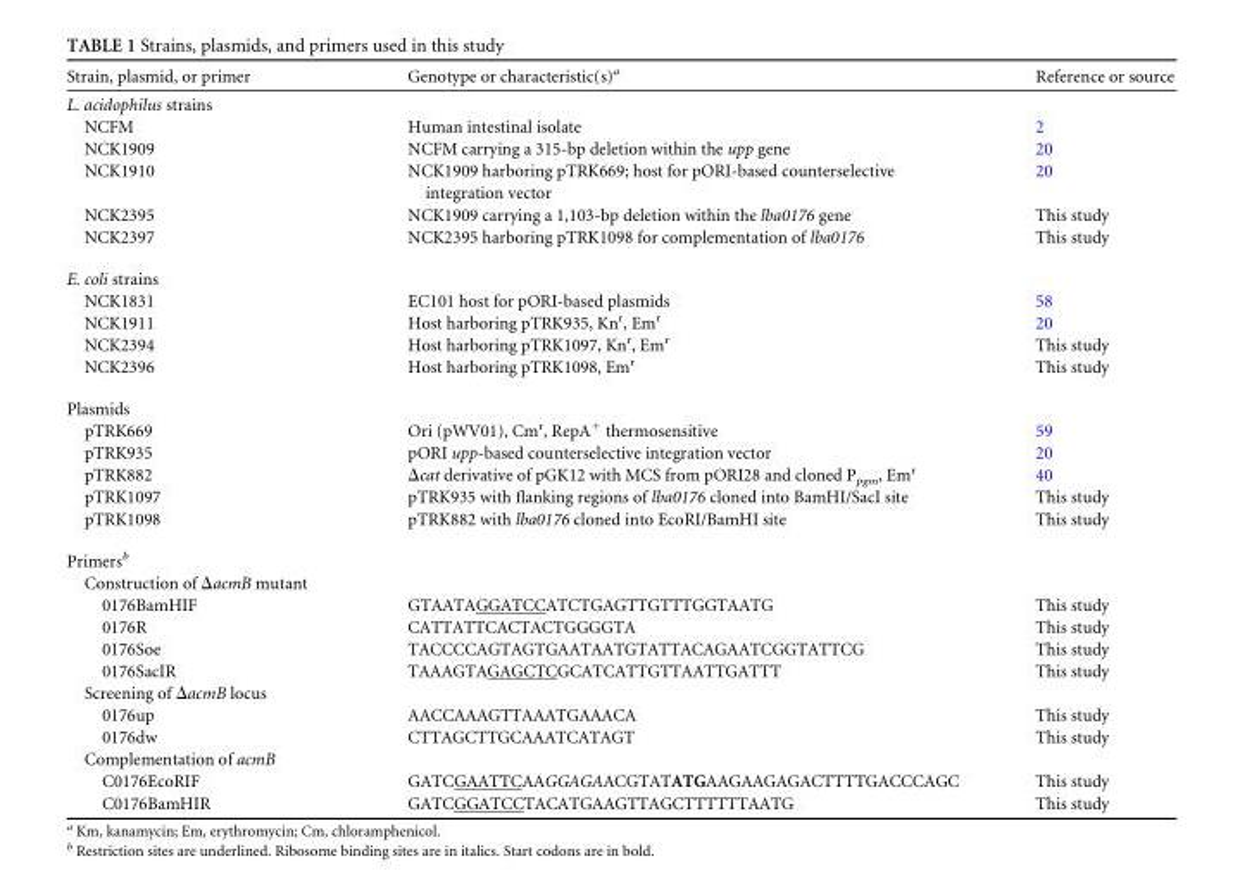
<table><thead><tr><td>Strain, plasmid, or primer</td><td>Genotype or characteristic(s)<sup>a</sup></td><td>Reference or source</td></tr></thead><tbody><tr><td colspan="3">L. acidophilus strains</td></tr><tr><td>NCFM</td><td>Human intestinal isolate</td><td>2</td></tr><tr><td>NCK1909</td><td>NCFM carrying a 315-bp deletion within the upp gene</td><td>20</td></tr><tr><td>NCK1910</td><td>NCK1909 harboring pTRK669; host for pORI-based counterselective integration vector</td><td>20</td></tr><tr><td>NCK2395</td><td>NCK1909 carrying a 1,103-bp deletion within the lba0176 gene</td><td>This study</td></tr><tr><td>NCK2397</td><td>NCK2395 harboring pTRK1098 for complementation of lba0176</td><td>This study</td></tr><tr><td colspan="3">E. coli strains</td></tr><tr><td>NCK1831</td><td>EC101 host for pORI-based plasmids</td><td>58</td></tr><tr><td>NCK1911</td><td>Host harboring pTRK935, Kn<sup>r</sup>, Em<sup>r</sup></td><td>20</td></tr><tr><td>NCK2394</td><td>Host harboring pTRK1097, Kn<sup>r</sup>, Em<sup>r</sup></td><td>This study</td></tr><tr><td>NCK2396</td><td>Host harboring pTRK1098, Em<sup>r</sup></td><td>This study</td></tr><tr><td colspan="3">Plasmids</td></tr><tr><td>pTRK669</td><td>Ori (pWV01), Cm<sup>r</sup>, RepA<sup>+</sup> thermosensitive</td><td>59</td></tr><tr><td>pTRK935</td><td>pORI upp-based counterselective integration vector</td><td>20</td></tr><tr><td>pTRK882</td><td>Δcat derivative of pGK12 with MCS from pORI28 and cloned P<sub>pgm</sub>, Em<sup>r</sup></td><td>40</td></tr><tr><td>pTRK1097</td><td>pTRK935 with flanking regions of lba0176 cloned into BamHI/SacI site</td><td>This study</td></tr><tr><td>pTRK1098</td><td>pTRK882 with lba0176 cloned into EcoRI/BamHI site</td><td>This study</td></tr><tr><td colspan="3">Primers<sup>b</sup></td></tr><tr><td colspan="3">Construction of ΔacmB mutant</td></tr><tr><td>0176BamHIF</td><td>GTAATAGGATCCATCTGAGTTGTTTGGTAATG</td><td>This study</td></tr><tr><td>0176R</td><td>CATTATTCACTACTGGGGTA</td><td>This study</td></tr><tr><td>0176Soe</td><td>TACCCCAGTAGTGAATAATGTATTACAGAATCGGTATTCG</td><td>This study</td></tr><tr><td>0176SacIR</td><td>TAAAGTAGAGCTCGCATCATTGTTAATTGATTT</td><td>This study</td></tr><tr><td colspan="3">Screening of ΔacmB locus</td></tr><tr><td>0176up</td><td>AACCAAAGTTAAATGAAACA</td><td>This study</td></tr><tr><td>0176dw</td><td>CTTAGCTTGCAAATCATAGT</td><td>This study</td></tr><tr><td colspan="3">Complementation of acmB</td></tr><tr><td>C0176EcoRIF</td><td>GATCGAATTCAAGGAGAACGTATATGAAGAAGAGACTTTTGACCCAGC</td><td>This study</td></tr><tr><td>C0176BamHIR</td><td>GATCGGATCCTACATGAAGTTAGCTTTTTTAATG</td><td>This study</td></tr></tbody></table>